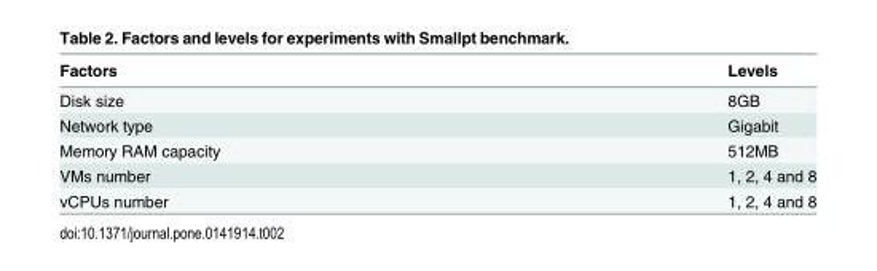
<table><thead><tr><td>Factors</td><td>Levels</td></tr></thead><tbody><tr><td>Disk size</td><td>8GB</td></tr><tr><td>Network type</td><td>Gigabit</td></tr><tr><td>Memory RAM capacity</td><td>512MB</td></tr><tr><td>VMs number</td><td>1, 2, 4 and 8</td></tr><tr><td>vCPUs number</td><td>1, 2, 4 and 8</td></tr></tbody></table>